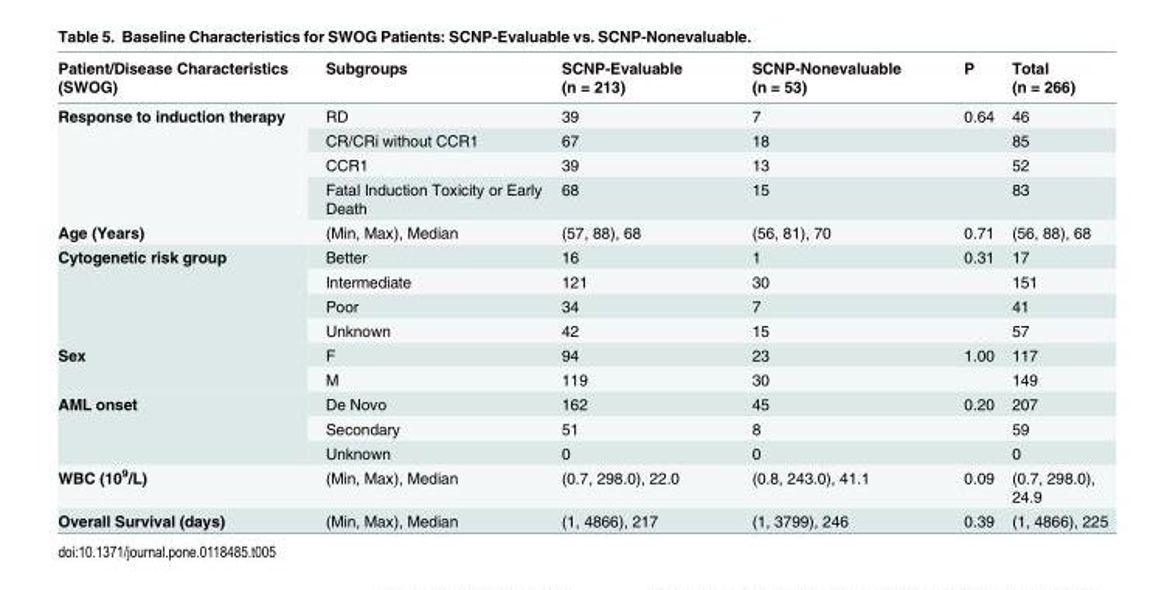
<table><thead><tr><td>Patient/Disease Characteristics (SWOG)</td><td>Subgroups</td><td>SCNP-Evaluable (n = 213)</td><td>SCNP-Nonevaluable (n = 53)</td><td>P</td><td>Total (n = 266)</td></tr></thead><tbody><tr><td rowspan="4">Response to induction therapy</td><td>RD</td><td>39</td><td>7</td><td>0.64</td><td>46</td></tr><tr><td>CR/CRi without CCR1</td><td>67</td><td>18</td><td></td><td>85</td></tr><tr><td>CCR1</td><td>39</td><td>13</td><td></td><td>52</td></tr><tr><td>Fatal Induction Toxicity or Early Death</td><td>68</td><td>15</td><td></td><td>83</td></tr><tr><td>Age (Years)</td><td>(Min, Max), Median</td><td>(57, 88), 68</td><td>(56, 81), 70</td><td>0.71</td><td>(56, 88), 68</td></tr><tr><td rowspan="4">Cytogenetic risk group</td><td>Better</td><td>16</td><td>1</td><td>0.31</td><td>17</td></tr><tr><td>Intermediate</td><td>121</td><td>30</td><td></td><td>151</td></tr><tr><td>Poor</td><td>34</td><td>7</td><td></td><td>41</td></tr><tr><td>Unknown</td><td>42</td><td>15</td><td></td><td>57</td></tr><tr><td rowspan="2">Sex</td><td>F</td><td>94</td><td>23</td><td>1.00</td><td>117</td></tr><tr><td>M</td><td>119</td><td>30</td><td></td><td>149</td></tr><tr><td rowspan="3">AML onset</td><td>De Novo</td><td>162</td><td>45</td><td>0.20</td><td>207</td></tr><tr><td>Secondary</td><td>51</td><td>8</td><td></td><td>59</td></tr><tr><td>Unknown</td><td>0</td><td>0</td><td></td><td>0</td></tr><tr><td>WBC (10<sup>9</sup>/L)</td><td>(Min, Max), Median</td><td>(0.7, 298.0), 22.0</td><td>(0.8, 243.0), 41.1</td><td>0.09</td><td>(0.7, 298.0), 24.9</td></tr><tr><td>Overall Survival (days)</td><td>(Min, Max), Median</td><td>(1, 4866), 217</td><td>(1, 3799), 246</td><td>0.39</td><td>(1, 4866), 225</td></tr></tbody></table>